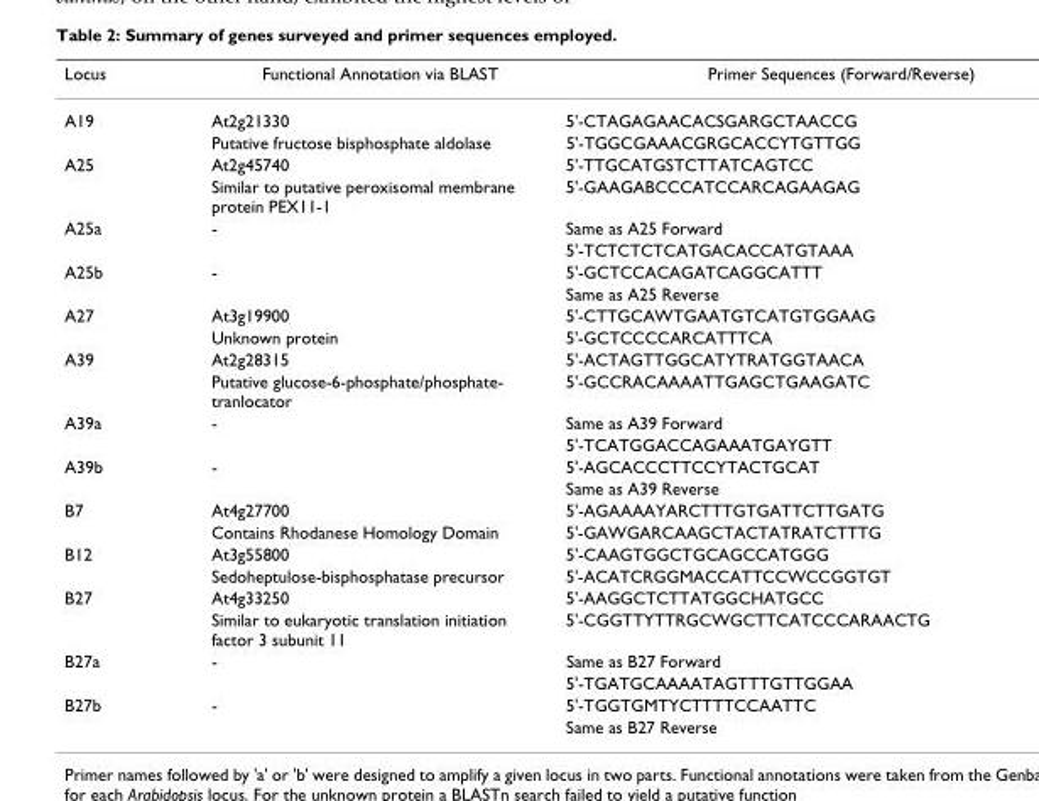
<table><thead><tr><td>Locus</td><td>Functional Annotation via BLAST</td><td>Primer Sequences (Forward/Reverse)</td></tr></thead><tbody><tr><td rowspan="2">A19</td><td>At2g21330</td><td>5&#x27;-CTAGAGAACACSGARGCTAACCG</td></tr><tr><td>Putative fructose bisphosphate aldolase</td><td>5&#x27;-TGGCGAAACGRGCACCYTGTTGG</td></tr><tr><td rowspan="2">A25</td><td>At2g45740</td><td>5&#x27;-TTGCATGSTCTTATCAGTCC</td></tr><tr><td>Similar to putative peroxisomal membrane protein PEX11-1</td><td>5&#x27;-GAAGABCCCATCCARCAGAAGAG</td></tr><tr><td rowspan="2">A25a</td><td>-</td><td>Same as A25 Forward</td></tr><tr><td></td><td>5&#x27;-TCTCTCTCATGACACCATGTAAA</td></tr><tr><td rowspan="2">A25b</td><td>-</td><td>5&#x27;-GCTCCACAGATCAGGCATTT</td></tr><tr><td></td><td>Same as A25 Reverse</td></tr><tr><td rowspan="2">A27</td><td>At3g19900</td><td>5&#x27;-CTTGCAWTGAATGTCATGTGGAAG</td></tr><tr><td>Unknown protein</td><td>5&#x27;-GCTCCCCARCATTTCA</td></tr><tr><td rowspan="2">A39</td><td>At2g28315</td><td>5&#x27;-ACTAGTTGGCATYTRATGGTAACA</td></tr><tr><td>Putative glucose-6-phosphate/phosphate- tranlocator</td><td>5&#x27;-GCCRACAAAATTGAGCTGAAGATC</td></tr><tr><td rowspan="2">A39a</td><td>-</td><td>Same as A39 Forward</td></tr><tr><td></td><td>5&#x27;-TCATGGACCAGAAATGAYGTT</td></tr><tr><td rowspan="2">A39b</td><td>-</td><td>5&#x27;-AGCACCCTTCCYTACTGCAT</td></tr><tr><td></td><td>Same as A39 Reverse</td></tr><tr><td rowspan="2">B7</td><td>At4g27700</td><td>5&#x27;-AGAAAAYARCTTTGTGATTCTTGATG</td></tr><tr><td>Contains Rhodanese Homology Domain</td><td>5&#x27;-GAWGARCAAGCTACTATRATCTTTG</td></tr><tr><td rowspan="2">B12</td><td>At3g55800</td><td>5&#x27;-CAAGTGGCTGCAGCCATGGG</td></tr><tr><td>Sedoheptulose-bisphosphatase precursor</td><td>5&#x27;-ACATCRGGMACCATTCCWCCGGTGT</td></tr><tr><td rowspan="2">B27</td><td>At4g33250</td><td>5&#x27;-AAGGCTCTTATGGCHATGCC</td></tr><tr><td>Similar to eukaryotic translation initiation factor 3 subunit 11</td><td>5&#x27;-CGGTTYTTRGCWGCTTCATCCCARAACTG</td></tr><tr><td rowspan="2">B27a</td><td>-</td><td>Same as B27 Forward</td></tr><tr><td></td><td>5&#x27;-TGATGCAAAATAGTTTGTTGGAA</td></tr><tr><td rowspan="2">B27b</td><td>-</td><td>5&#x27;-TGGTGMTYCTTTTCCAATTC</td></tr><tr><td></td><td>Same as B27 Reverse</td></tr></tbody></table>